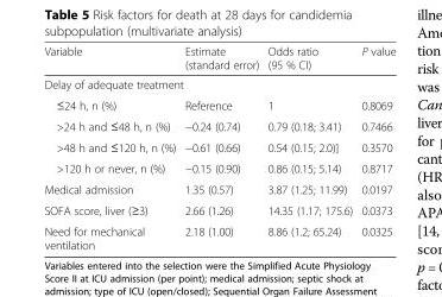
<table><thead><tr><td>Variable</td><td>Estimate (standard error)</td><td>Odds ratio (95 % CI)</td><td>P value</td></tr></thead><tbody><tr><td colspan="4">Delay of adequate treatment</td></tr><tr><td>≤24 h, n (%)</td><td>Reference</td><td>1</td><td>0.8069</td></tr><tr><td>&gt;24 h and ≤48 h, n (%)</td><td>−0.24 (0.74)</td><td>0.79 (0.18; 3.41)</td><td>0.7466</td></tr><tr><td>&gt;48 h and ≤120 h, n (%)</td><td>−0.61 (0.66)</td><td>0.54 (0.15; 2.0)]</td><td>0.3570</td></tr><tr><td>&gt;120 h or never, n (%)</td><td>−0.15 (0.90)</td><td>0.86 (0.15; 5.14)</td><td>0.8717</td></tr><tr><td>Medical admission</td><td>1.35 (0.57)</td><td>3.87 (1.25; 11.99)</td><td>0.0197</td></tr><tr><td>SOFA score, liver (≥3)</td><td>2.66 (1.26)</td><td>14.35 (1.17; 175.6)</td><td>0.0373</td></tr><tr><td>Need for mechanical ventilation</td><td>2.18 (1.00)</td><td>8.86 (1.2; 65.24)</td><td>0.0325</td></tr></tbody></table>